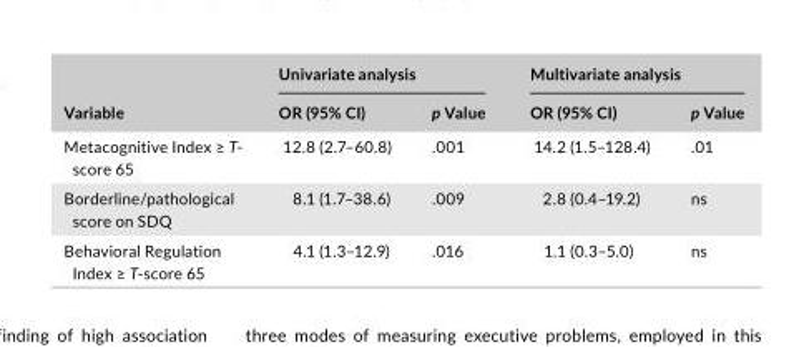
<table><thead><tr><td rowspan="2">Variable</td><td colspan="2">Univariate analysis</td><td colspan="2">Multivariate analysis</td></tr><tr><td>OR (95% CI)</td><td>p Value</td><td>OR (95% CI)</td><td>p Value</td></tr></thead><tbody><tr><td>Metacognitive Index ≥ T- score 65</td><td>12.8 (2.7–60.8)</td><td>.001</td><td>14.2 (1.5–128.4)</td><td>.01</td></tr><tr><td>Borderline/pathological score on SDQ</td><td>8.1 (1.7–38.6)</td><td>.009</td><td>2.8 (0.4–19.2)</td><td>ns</td></tr><tr><td>Behavioral Regulation Index ≥ T- score 65</td><td>4.1 (1.3–12.9)</td><td>.016</td><td>1.1 (0.3–5.0)</td><td>ns</td></tr></tbody></table>